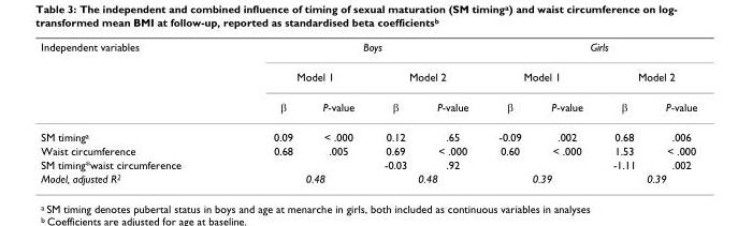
<table><thead><tr><td rowspan="3">Independent variables</td><td colspan="4">Boys</td><td colspan="4">Girls</td></tr><tr><td colspan="2">Model 1</td><td colspan="2">Model 2</td><td colspan="2">Model 1</td><td colspan="2">Model 2</td></tr><tr><td>β</td><td>P-value</td><td>β</td><td>P-value</td><td>β</td><td>P-value</td><td>β</td><td>P-value</td></tr></thead><tbody><tr><td>SM timing<sup>a</sup></td><td>0.09</td><td>&lt; .000</td><td>0.12</td><td>.65</td><td>-0.09</td><td>.002</td><td>0.68</td><td>.006</td></tr><tr><td>Waist circumference</td><td>0.68</td><td>.005</td><td>0.69</td><td>&lt; .000</td><td>0.60</td><td>&lt; .000</td><td>1.53</td><td>&lt; .000</td></tr><tr><td>SM timing*waist circumference</td><td></td><td></td><td>-0.03</td><td>.92</td><td></td><td></td><td>-1.11</td><td>.002</td></tr><tr><td>Model, adjusted R<sup>2</sup></td><td colspan="2">0.48</td><td colspan="2">0.48</td><td colspan="2">0.39</td><td colspan="2">0.39</td></tr></tbody></table>